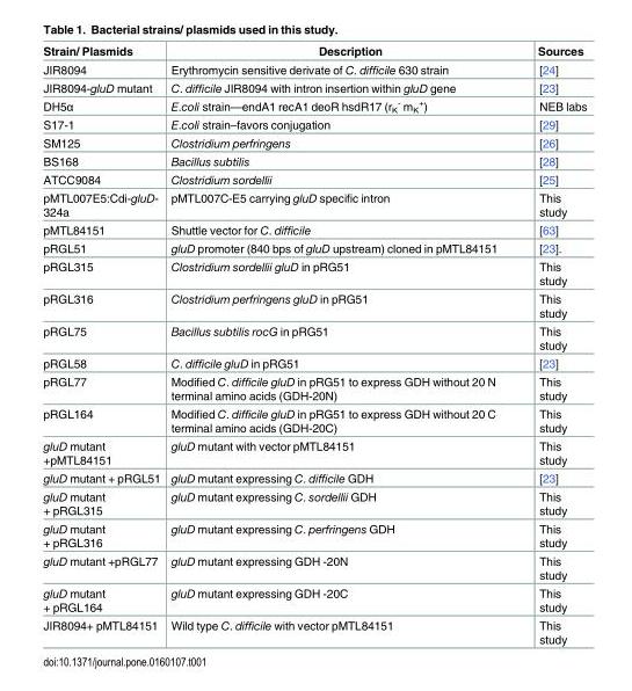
<table><thead><tr><td>Strain/ Plasmids</td><td>Description</td><td>Sources</td></tr></thead><tbody><tr><td>JIR8094</td><td>Erythromycin sensitive derivate of C. difficile 630 strain</td><td>[24]</td></tr><tr><td>JIR8094-gluD mutant</td><td>C. difficile JIR8094 with intron insertion within gluD gene</td><td>[23]</td></tr><tr><td>DH5α</td><td>E.coli strain—endA1 recA1 deoR hsdR17 (r<sub>K</sub> <sup>-</sup> m<sub>K</sub> <sup>+</sup>)</td><td>NEB labs</td></tr><tr><td>S17-1</td><td>E.coli strain–favors conjugation</td><td>[29]</td></tr><tr><td>SM125</td><td>Clostridium perfringens</td><td>[26]</td></tr><tr><td>BS168</td><td>Bacillus subtilis</td><td>[28]</td></tr><tr><td>ATCC9084</td><td>Clostridium sordellii</td><td>[25]</td></tr><tr><td>pMTL007E5:Cdi-gluD- 324a</td><td>pMTL007C-E5 carrying gluD specific intron</td><td>This study</td></tr><tr><td>pMTL84151</td><td>Shuttle vector for C. difficile</td><td>[63]</td></tr><tr><td>pRGL51</td><td>gluD promoter (840 bps of gluD upstream) cloned in pMTL84151</td><td>[23].</td></tr><tr><td>pRGL315</td><td>Clostridium sordellii gluD in pRG51</td><td>This study</td></tr><tr><td>pRGL316</td><td>Clostridium perfringens gluD in pRG51</td><td>This study</td></tr><tr><td>pRGL75</td><td>Bacillus subtilis rocG in pRG51</td><td>This study</td></tr><tr><td>pRGL58</td><td>C. difficile gluD in pRG51</td><td>[23]</td></tr><tr><td>pRGL77</td><td>Modified C. difficile gluD in pRG51 to express GDH without 20 N terminal amino acids (GDH-20N)</td><td>This study</td></tr><tr><td>pRGL164</td><td>Modified C. difficile gluD in pRG51 to express GDH without 20 C terminal amino acids (GDH-20C)</td><td>This study</td></tr><tr><td>gluD mutant +pMTL84151</td><td>gluD mutant with vector pMTL84151</td><td>This study</td></tr><tr><td>gluD mutant + pRGL51</td><td>gluD mutant expressing C. difficile GDH</td><td>[23]</td></tr><tr><td>gluD mutant + pRGL315</td><td>gluD mutant expressing C. sordellii GDH</td><td>This study</td></tr><tr><td>gluD mutant + pRGL316</td><td>gluD mutant expressing C. perfringens GDH</td><td>This study</td></tr><tr><td>gluD mutant +pRGL77</td><td>gluD mutant expressing GDH -20N</td><td>This study</td></tr><tr><td>gluD mutant + pRGL164</td><td>gluD mutant expressing GDH -20C</td><td>This study</td></tr><tr><td>JIR8094+ pMTL84151</td><td>Wild type C. difficile with vector pMTL84151</td><td>This study</td></tr></tbody></table>